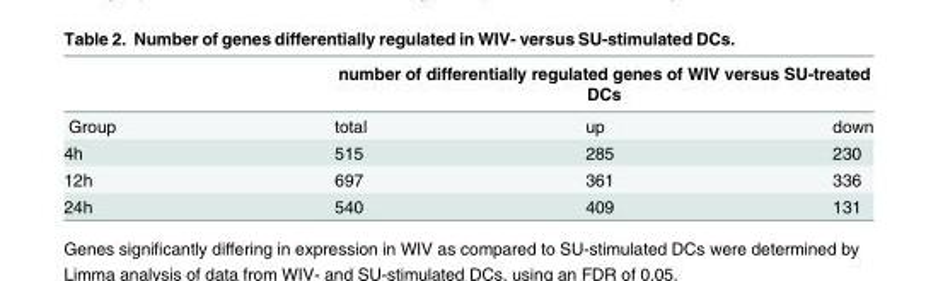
<table><thead><tr><td rowspan="2">Group</td><td colspan="3">number of differentially regulated genes of WIV versus SU-treated DCs</td></tr><tr><td>total</td><td>up</td><td>down</td></tr></thead><tbody><tr><td>4h</td><td>515</td><td>285</td><td>230</td></tr><tr><td>12h</td><td>697</td><td>361</td><td>336</td></tr><tr><td>24h</td><td>540</td><td>409</td><td>131</td></tr></tbody></table>